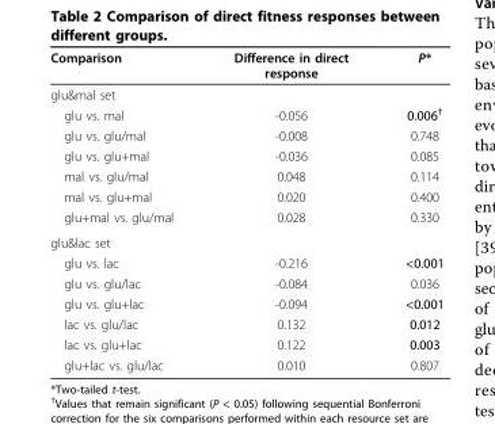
<table><thead><tr><td>Comparison</td><td>Difference in direct response</td><td>P*</td></tr></thead><tbody><tr><td colspan="3">glu&amp;mal set</td></tr><tr><td>glu vs. mal</td><td>-0.056</td><td>0.006<sup>†</sup></td></tr><tr><td>glu vs. glu/mal</td><td>-0.008</td><td>0.748</td></tr><tr><td>glu vs. glu+mal</td><td>-0.036</td><td>0.085</td></tr><tr><td>mal vs. glu/mal</td><td>0.048</td><td>0.114</td></tr><tr><td>mal vs. glu+mal</td><td>0.020</td><td>0.400</td></tr><tr><td>glu+mal vs. glu/mal</td><td>0.028</td><td>0.330</td></tr><tr><td colspan="3">glu&amp;lac set</td></tr><tr><td>glu vs. lac</td><td>-0.216</td><td>&lt;0.001</td></tr><tr><td>glu vs. glu/lac</td><td>-0.084</td><td>0.036</td></tr><tr><td>glu vs. glu+lac</td><td>-0.094</td><td>&lt;0.001</td></tr><tr><td>lac vs. glu/lac</td><td>0.132</td><td>0.012</td></tr><tr><td>lac vs. glu+lac</td><td>0.122</td><td>0.003</td></tr><tr><td>glu+lac vs. glu/lac</td><td>0.010</td><td>0.807</td></tr></tbody></table>